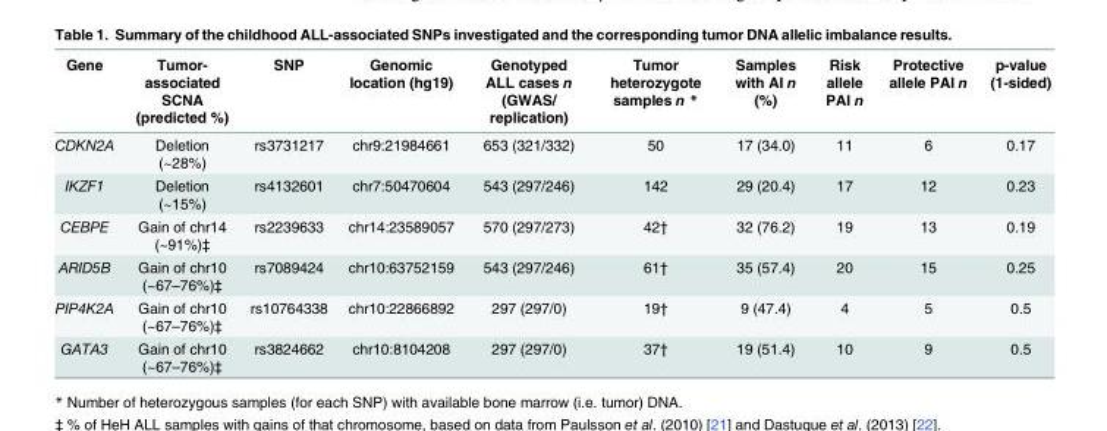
<table><thead><tr><td>Gene</td><td>Tumor- associated SCNA (predicted %)</td><td>SNP</td><td>Genomic location (hg19)</td><td>Genotyped ALL cases n (GWAS/ replication)</td><td>Tumor heterozygote samples n *</td><td>Samples with AI n (%)</td><td>Risk allele PAI n</td><td>Protective allele PAI n</td><td>p-value (1-sided)</td></tr></thead><tbody><tr><td>CDKN2A</td><td>Deletion (~28%)</td><td>rs3731217</td><td>chr9:21984661</td><td>653 (321/332)</td><td>50</td><td>17 (34.0)</td><td>11</td><td>6</td><td>0.17</td></tr><tr><td>IKZF1</td><td>Deletion (~15%)</td><td>rs4132601</td><td>chr7:50470604</td><td>543 (297/246)</td><td>142</td><td>29 (20.4)</td><td>17</td><td>12</td><td>0.23</td></tr><tr><td>CEBPE</td><td>Gain of chr14 (~91%)‡</td><td>rs2239633</td><td>chr14:23589057</td><td>570 (297/273)</td><td>42†</td><td>32 (76.2)</td><td>19</td><td>13</td><td>0.19</td></tr><tr><td>ARID5B</td><td>Gain of chr10 (~67–76%)‡</td><td>rs7089424</td><td>chr10:63752159</td><td>543 (297/246)</td><td>61†</td><td>35 (57.4)</td><td>20</td><td>15</td><td>0.25</td></tr><tr><td>PIP4K2A</td><td>Gain of chr10 (~67–76%)‡</td><td>rs10764338</td><td>chr10:22866892</td><td>297 (297/0)</td><td>19†</td><td>9 (47.4)</td><td>4</td><td>5</td><td>0.5</td></tr><tr><td>GATA3</td><td>Gain of chr10 (~67–76%)‡</td><td>rs3824662</td><td>chr10:8104208</td><td>297 (297/0)</td><td>37†</td><td>19 (51.4)</td><td>10</td><td>9</td><td>0.5</td></tr></tbody></table>